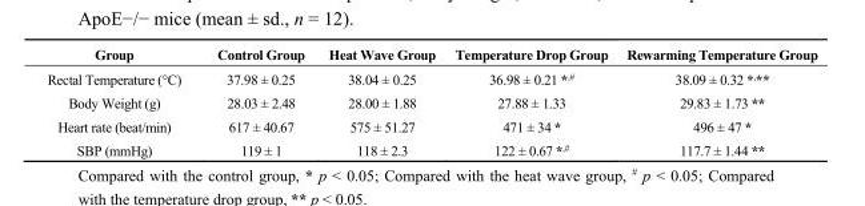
<table><thead><tr><td>Group</td><td>Control Group</td><td>Heat Wave Group</td><td>Temperature Drop Group</td><td>Rewarming Temperature Group</td></tr></thead><tbody><tr><td>Rectal Temperature (°C)</td><td>37.98 ± 0.25</td><td>38.04 ± 0.25</td><td>36.98 ± 0.21 *<sup>,#</sup></td><td>38.09 ± 0.32 *<sup>,</sup>**</td></tr><tr><td>Body Weight (g)</td><td>28.03 ± 2.48</td><td>28.00 ± 1.88</td><td>27.88 ± 1.33</td><td>29.83 ± 1.73 **</td></tr><tr><td>Heart rate (beat/min)</td><td>617 ± 40.67</td><td>575 ± 51.27</td><td>471 ± 34 *</td><td>496 ± 47 *</td></tr><tr><td>SBP (mmHg)</td><td>119 ± 1</td><td>118 ± 2.3</td><td>122 ± 0.67 *<sup>,#</sup></td><td>117.7 ± 1.44 **</td></tr></tbody></table>